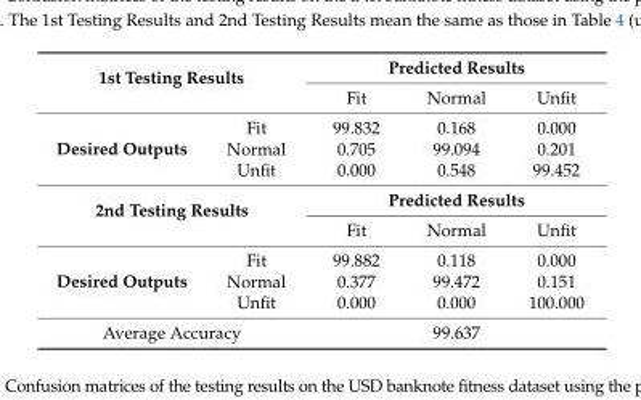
<table><tbody><tr><td rowspan="2" colspan="2">1st Testing Results</td><td colspan="3">Predicted Results</td></tr><tr><td>Fit</td><td>Normal</td><td>Unfit</td></tr><tr><td rowspan="3">Desired Outputs</td><td>Fit</td><td>99.832</td><td>0.168</td><td>0.000</td></tr><tr><td>Normal</td><td>0.705</td><td>99.094</td><td>0.201</td></tr><tr><td>Unfit</td><td>0.000</td><td>0.548</td><td>99.452</td></tr><tr><td rowspan="2" colspan="2">2nd Testing Results</td><td colspan="3">Predicted Results</td></tr><tr><td>Fit</td><td>Normal</td><td>Unfit</td></tr><tr><td rowspan="3">Desired Outputs</td><td>Fit</td><td>99.882</td><td>0.118</td><td>0.000</td></tr><tr><td>Normal</td><td>0.377</td><td>99.472</td><td>0.151</td></tr><tr><td>Unfit</td><td>0.000</td><td>0.000</td><td>100.000</td></tr><tr><td colspan="2">Average Accuracy</td><td colspan="3">99.637</td></tr></tbody></table>